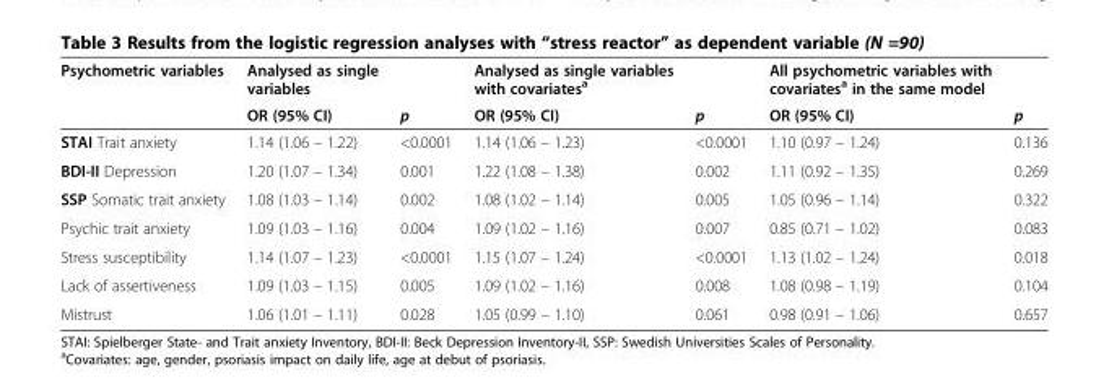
<table><thead><tr><td rowspan="2">Psychometric variables</td><td rowspan="2">Analysed as single variables OR (95% CI)</td><td rowspan="2">p</td><td rowspan="2">Analysed as single variables with covariates<sup>a</sup> OR (95% CI)</td><td rowspan="2">p</td><td rowspan="2">All psychometric variables with covariates<sup>a</sup> in the same model OR (95% CI)</td><td rowspan="2">p</td></tr><tr></tr></thead><tbody><tr><td>STAI Trait anxiety</td><td>1.14 (1.06 – 1.22)</td><td>&lt;0.0001</td><td>1.14 (1.06 – 1.23)</td><td>&lt;0.0001</td><td>1.10 (0.97 – 1.24)</td><td>0.136</td></tr><tr><td>BDI-II Depression</td><td>1.20 (1.07 – 1.34)</td><td>0.001</td><td>1.22 (1.08 – 1.38)</td><td>0.002</td><td>1.11 (0.92 – 1.35)</td><td>0.269</td></tr><tr><td>SSP Somatic trait anxiety</td><td>1.08 (1.03 – 1.14)</td><td>0.002</td><td>1.08 (1.02 – 1.14)</td><td>0.005</td><td>1.05 (0.96 – 1.14)</td><td>0.322</td></tr><tr><td>Psychic trait anxiety</td><td>1.09 (1.03 – 1.16)</td><td>0.004</td><td>1.09 (1.02 – 1.16)</td><td>0.007</td><td>0.85 (0.71 – 1.02)</td><td>0.083</td></tr><tr><td>Stress susceptibility</td><td>1.14 (1.07 – 1.23)</td><td>&lt;0.0001</td><td>1.15 (1.07 – 1.24)</td><td>&lt;0.0001</td><td>1.13 (1.02 – 1.24)</td><td>0.018</td></tr><tr><td>Lack of assertiveness</td><td>1.09 (1.03 – 1.15)</td><td>0.005</td><td>1.09 (1.02 – 1.16)</td><td>0.008</td><td>1.08 (0.98 – 1.19)</td><td>0.104</td></tr><tr><td>Mistrust</td><td>1.06 (1.01 – 1.11)</td><td>0.028</td><td>1.05 (0.99 – 1.10)</td><td>0.061</td><td>0.98 (0.91 – 1.06)</td><td>0.657</td></tr></tbody></table>